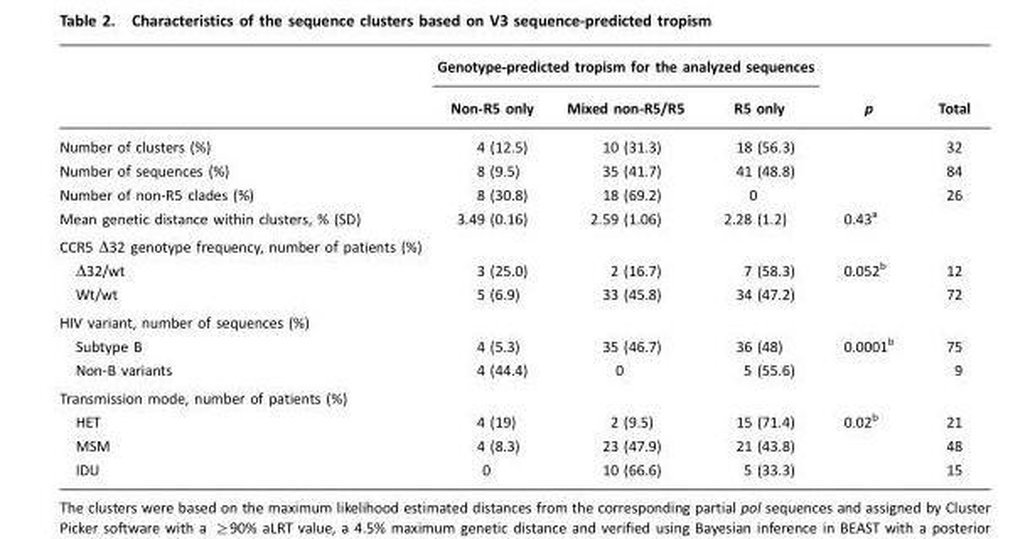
<table><thead><tr><td rowspan="2"></td><td colspan="3">Genotype-predicted tropism for the analyzed sequences</td><td rowspan="2">p</td><td rowspan="2">Total</td></tr><tr><td>Non-R5 only</td><td>Mixed non-R5/R5</td><td>R5 only</td></tr></thead><tbody><tr><td>Number of clusters (%)</td><td>4 (12.5)</td><td>10 (31.3)</td><td>18 (56.3)</td><td></td><td>32</td></tr><tr><td>Number of sequences (%)</td><td>8 (9.5)</td><td>35 (41.7)</td><td>41 (48.8)</td><td></td><td>84</td></tr><tr><td>Number of non-R5 clades (%)</td><td>8 (30.8)</td><td>18 (69.2)</td><td>0</td><td></td><td>26</td></tr><tr><td>Mean genetic distance within clusters, % (SD)</td><td>3.49 (0.16)</td><td>2.59 (1.06)</td><td>2.28 (1.2)</td><td>0.43<sup>a</sup></td><td></td></tr><tr><td colspan="6">CCR5 Δ32 genotype frequency, number of patients (%)</td></tr><tr><td>Δ32/wt</td><td>3 (25.0)</td><td>2 (16.7)</td><td>7 (58.3)</td><td>0.052<sup>b</sup></td><td>12</td></tr><tr><td>Wt/wt</td><td>5 (6.9)</td><td>33 (45.8)</td><td>34 (47.2)</td><td></td><td>72</td></tr><tr><td colspan="6">HIV variant, number of sequences (%)</td></tr><tr><td>Subtype B</td><td>4 (5.3)</td><td>35 (46.7)</td><td>36 (48)</td><td>0.0001<sup>b</sup></td><td>75</td></tr><tr><td>Non-B variants</td><td>4 (44.4)</td><td>0</td><td>5 (55.6)</td><td></td><td>9</td></tr><tr><td colspan="6">Transmission mode, number of patients (%)</td></tr><tr><td>HET</td><td>4 (19)</td><td>2 (9.5)</td><td>15 (71.4)</td><td>0.02<sup>b</sup></td><td>21</td></tr><tr><td>MSM</td><td>4 (8.3)</td><td>23 (47.9)</td><td>21 (43.8)</td><td></td><td>48</td></tr><tr><td>IDU</td><td>0</td><td>10 (66.6)</td><td>5 (33.3)</td><td></td><td>15</td></tr></tbody></table>